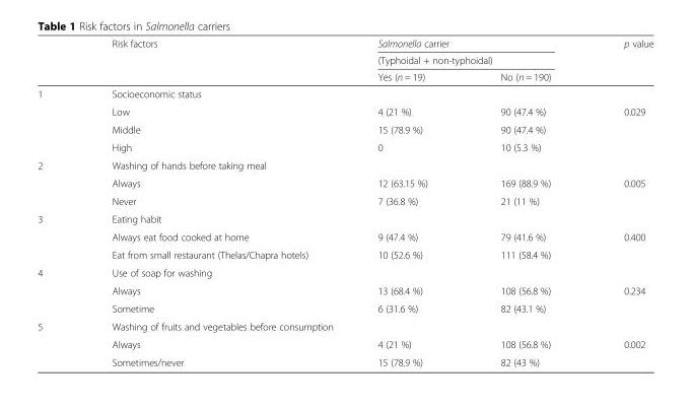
<table><thead><tr><td rowspan="3"></td><td rowspan="3">Risk factors</td><td rowspan="2" colspan="2">Salmonella carrier (Typhoidal + non-typhoidal)</td><td rowspan="3">p value</td></tr><tr></tr><tr><td>Yes (n = 19)</td><td>No (n = 190)</td></tr></thead><tbody><tr><td rowspan="4">1</td><td colspan="3">Socioeconomic status</td><td></td></tr><tr><td>Low</td><td>4 (21 %)</td><td>90 (47.4 %)</td><td rowspan="3">0.029</td></tr><tr><td>Middle</td><td>15 (78.9 %)</td><td>90 (47.4 %)</td></tr><tr><td>High</td><td>0</td><td>10 (5.3 %)</td></tr><tr><td rowspan="3">2</td><td colspan="4">Washing of hands before taking meal</td></tr><tr><td>Always</td><td>12 (63.15 %)</td><td>169 (88.9 %)</td><td rowspan="2">0.005</td></tr><tr><td>Never</td><td>7 (36.8 %)</td><td>21 (11 %)</td></tr><tr><td rowspan="3">3</td><td colspan="4">Eating habit</td></tr><tr><td>Always eat food cooked at home</td><td>9 (47.4 %)</td><td>79 (41.6 %)</td><td rowspan="2">0.400</td></tr><tr><td>Eat from small restaurant (Thelas/Chapra hotels)</td><td>10 (52.6 %)</td><td>111 (58.4 %)</td></tr><tr><td rowspan="3">4</td><td colspan="4">Use of soap for washing</td></tr><tr><td>Always</td><td>13 (68.4 %)</td><td>108 (56.8 %)</td><td rowspan="2">0.234</td></tr><tr><td>Sometime</td><td>6 (31.6 %)</td><td>82 (43.1 %)</td></tr><tr><td rowspan="3">5</td><td colspan="4">Washing of fruits and vegetables before consumption</td></tr><tr><td>Always</td><td>4 (21 %)</td><td>108 (56.8 %)</td><td rowspan="2">0.002</td></tr><tr><td>Sometimes/never</td><td>15 (78.9 %)</td><td>82 (43 %)</td></tr></tbody></table>